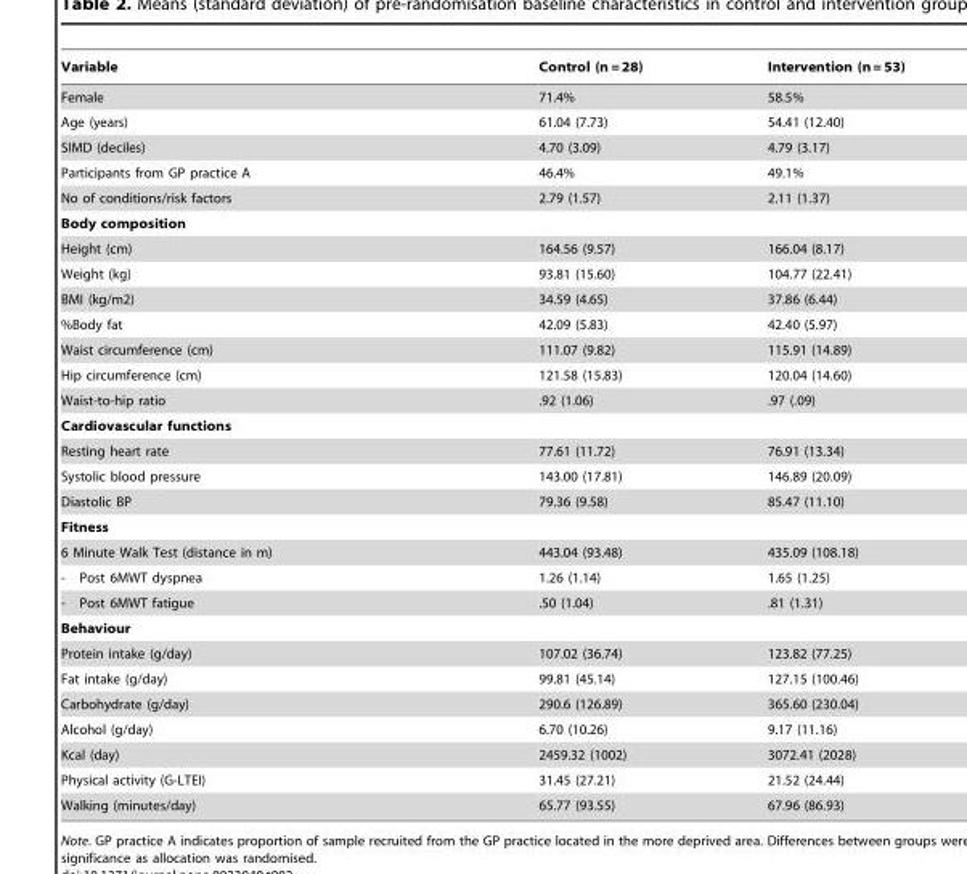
<table><thead><tr><td>Variable</td><td>Control (n = 28)</td><td>Intervention (n = 53)</td></tr></thead><tbody><tr><td>Female</td><td>71.4%</td><td>58.5%</td></tr><tr><td>Age (years)</td><td>61.04 (7.73)</td><td>54.41 (12.40)</td></tr><tr><td>SIMD (deciles)</td><td>4.70 (3.09)</td><td>4.79 (3.17)</td></tr><tr><td>Participants from GP practice A</td><td>46.4%</td><td>49.1%</td></tr><tr><td>No of conditions/risk factors</td><td>2.79 (1.57)</td><td>2.11 (1.37)</td></tr><tr><td colspan="3">Body composition</td></tr><tr><td>Height (cm)</td><td>164.56 (9.57)</td><td>166.04 (8.17)</td></tr><tr><td>Weight (kg)</td><td>93.81 (15.60)</td><td>104.77 (22.41)</td></tr><tr><td>BMI (kg/m2)</td><td>34.59 (4.65)</td><td>37.86 (6.44)</td></tr><tr><td>%Body fat</td><td>42.09 (5.83)</td><td>42.40 (5.97)</td></tr><tr><td>Waist circumference (cm)</td><td>111.07 (9.82)</td><td>115.91 (14.89)</td></tr><tr><td>Hip circumference (cm)</td><td>121.58 (15.83)</td><td>120.04 (14.60)</td></tr><tr><td>Waist-to-hip ratio</td><td>.92 (1.06)</td><td>.97 (.09)</td></tr><tr><td colspan="3">Cardiovascular functions</td></tr><tr><td>Resting heart rate</td><td>77.61 (11.72)</td><td>76.91 (13.34)</td></tr><tr><td>Systolic blood pressure</td><td>143.00 (17.81)</td><td>146.89 (20.09)</td></tr><tr><td>Diastolic BP</td><td>79.36 (9.58)</td><td>85.47 (11.10)</td></tr><tr><td colspan="3">Fitness</td></tr><tr><td>6 Minute Walk Test (distance in m)</td><td>443.04 (93.48)</td><td>435.09 (108.18)</td></tr><tr><td>- Post 6MWT dyspnea</td><td>1.26 (1.14)</td><td>1.65 (1.25)</td></tr><tr><td>- Post 6MWT fatigue</td><td>.50 (1.04)</td><td>.81 (1.31)</td></tr><tr><td colspan="3">Behaviour</td></tr><tr><td>Protein intake (g/day)</td><td>107.02 (36.74)</td><td>123.82 (77.25)</td></tr><tr><td>Fat intake (g/day)</td><td>99.81 (45.14)</td><td>127.15 (100.46)</td></tr><tr><td>Carbohydrate (g/day)</td><td>290.6 (126.89)</td><td>365.60 (230.04)</td></tr><tr><td>Alcohol (g/day)</td><td>6.70 (10.26)</td><td>9.17 (11.16)</td></tr><tr><td>Kcal (day)</td><td>2459.32 (1002)</td><td>3072.41 (2028)</td></tr><tr><td>Physical activity (G-LTEI)</td><td>31.45 (27.21)</td><td>21.52 (24.44)</td></tr><tr><td>Walking (minutes/day)</td><td>65.77 (93.55)</td><td>67.96 (86.93)</td></tr></tbody></table>